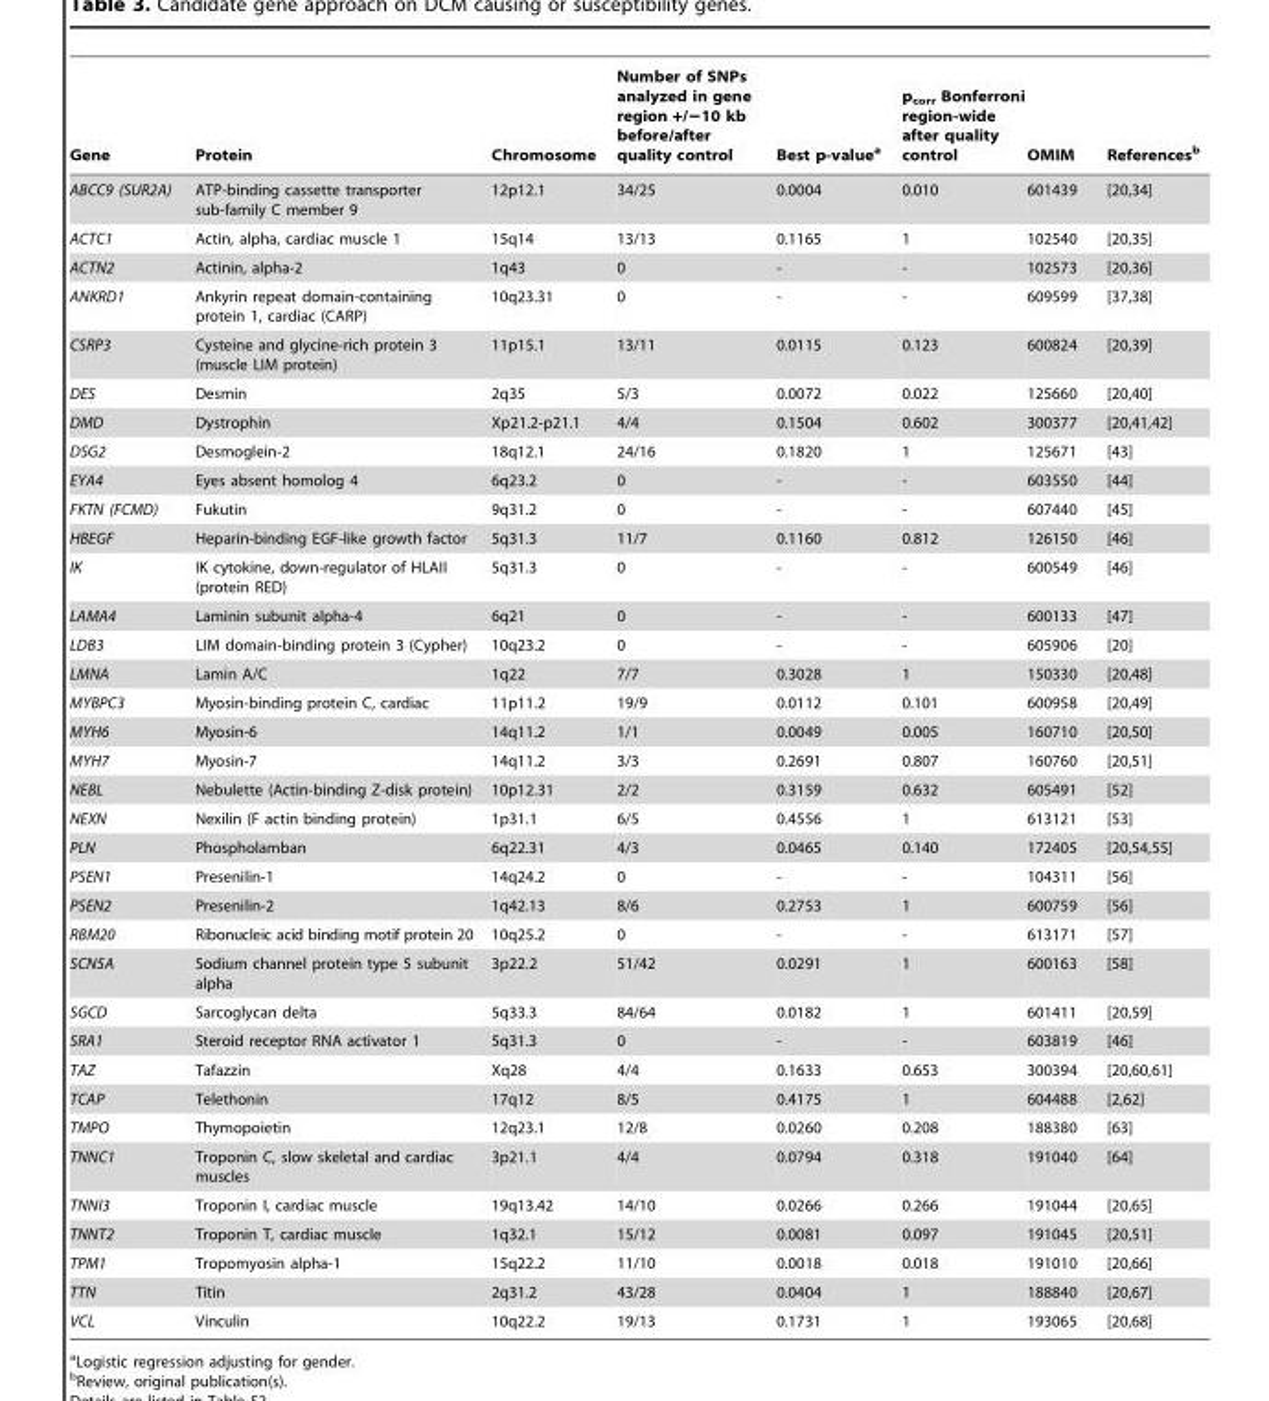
<table><thead><tr><td>Gene</td><td>Protein</td><td>Chromosome</td><td>Number of SNPs analyzed in gene region +/−10 kb before/after quality control</td><td>Best p-value<sup>a</sup></td><td>p<sub>corr</sub> Bonferroni region-wide after quality control</td><td>OMIM</td><td>References<sup>b</sup></td></tr></thead><tbody><tr><td>ABCC9 (SUR2A)</td><td>ATP-binding cassette transporter sub-family C member 9</td><td>12p12.1</td><td>34/25</td><td>0.0004</td><td>0.010</td><td>601439</td><td>[20,34]</td></tr><tr><td>ACTC1</td><td>Actin, alpha, cardiac muscle 1</td><td>15q14</td><td>13/13</td><td>0.1165</td><td>1</td><td>102540</td><td>[20,35]</td></tr><tr><td>ACTN2</td><td>Actinin, alpha-2</td><td>1q43</td><td>0</td><td>-</td><td>-</td><td>102573</td><td>[20,36]</td></tr><tr><td>ANKRD1</td><td>Ankyrin repeat domain-containing protein 1, cardiac (CARP)</td><td>10q23.31</td><td>0</td><td>-</td><td>-</td><td>609599</td><td>[37,38]</td></tr><tr><td>CSRP3</td><td>Cysteine and glycine-rich protein 3 (muscle LIM protein)</td><td>11p15.1</td><td>13/11</td><td>0.0115</td><td>0.123</td><td>600824</td><td>[20,39]</td></tr><tr><td>DES</td><td>Desmin</td><td>2q35</td><td>5/3</td><td>0.0072</td><td>0.022</td><td>125660</td><td>[20,40]</td></tr><tr><td>DMD</td><td>Dystrophin</td><td>Xp21.2-p21.1</td><td>4/4</td><td>0.1504</td><td>0.602</td><td>300377</td><td>[20,41,42]</td></tr><tr><td>DSG2</td><td>Desmoglein-2</td><td>18q12.1</td><td>24/16</td><td>0.1820</td><td>1</td><td>125671</td><td>[43]</td></tr><tr><td>EYA4</td><td>Eyes absent homolog 4</td><td>6q23.2</td><td>0</td><td>-</td><td>-</td><td>603550</td><td>[44]</td></tr><tr><td>FKTN (FCMD)</td><td>Fukutin</td><td>9q31.2</td><td>0</td><td>-</td><td>-</td><td>607440</td><td>[45]</td></tr><tr><td>HBEGF</td><td>Heparin-binding EGF-like growth factor</td><td>5q31.3</td><td>11/7</td><td>0.1160</td><td>0.812</td><td>126150</td><td>[46]</td></tr><tr><td>IK</td><td>IK cytokine, down-regulator of HLAII (protein RED)</td><td>5q31.3</td><td>0</td><td>-</td><td>-</td><td>600549</td><td>[46]</td></tr><tr><td>LAMA4</td><td>Laminin subunit alpha-4</td><td>6q21</td><td>0</td><td>-</td><td>-</td><td>600133</td><td>[47]</td></tr><tr><td>LDB3</td><td>LIM domain-binding protein 3 (Cypher)</td><td>10q23.2</td><td>0</td><td>-</td><td>-</td><td>605906</td><td>[20]</td></tr><tr><td>LMNA</td><td>Lamin A/C</td><td>1q22</td><td>7/7</td><td>0.3028</td><td>1</td><td>150330</td><td>[20,48]</td></tr><tr><td>MYBPC3</td><td>Myosin-binding protein C, cardiac</td><td>11p11.2</td><td>19/9</td><td>0.0112</td><td>0.101</td><td>600958</td><td>[20,49]</td></tr><tr><td>MYH6</td><td>Myosin-6</td><td>14q11.2</td><td>1/1</td><td>0.0049</td><td>0.005</td><td>160710</td><td>[20,50]</td></tr><tr><td>MYH7</td><td>Myosin-7</td><td>14q11.2</td><td>3/3</td><td>0.2691</td><td>0.807</td><td>160760</td><td>[20,51]</td></tr><tr><td>NEBL</td><td>Nebulette (Actin-binding Z-disk protein)</td><td>10p12.31</td><td>2/2</td><td>0.3159</td><td>0.632</td><td>605491</td><td>[52]</td></tr><tr><td>NEXN</td><td>Nexilin (F actin binding protein)</td><td>1p31.1</td><td>6/5</td><td>0.4556</td><td>1</td><td>613121</td><td>[53]</td></tr><tr><td>PLN</td><td>Phospholamban</td><td>6q22.31</td><td>4/3</td><td>0.0465</td><td>0.140</td><td>172405</td><td>[20,54,55]</td></tr><tr><td>PSEN1</td><td>Presenilin-1</td><td>14q24.2</td><td>0</td><td>-</td><td>-</td><td>104311</td><td>[56]</td></tr><tr><td>PSEN2</td><td>Presenilin-2</td><td>1q42.13</td><td>8/6</td><td>0.2753</td><td>1</td><td>600759</td><td>[56]</td></tr><tr><td>RBM20</td><td>Ribonucleic acid binding motif protein 20</td><td>10q25.2</td><td>0</td><td>-</td><td>-</td><td>613171</td><td>[57]</td></tr><tr><td>SCN5A</td><td>Sodium channel protein type 5 subunit alpha</td><td>3p22.2</td><td>51/42</td><td>0.0291</td><td>1</td><td>600163</td><td>[58]</td></tr><tr><td>SGCD</td><td>Sarcoglycan delta</td><td>5q33.3</td><td>84/64</td><td>0.0182</td><td>1</td><td>601411</td><td>[20,59]</td></tr><tr><td>SRA1</td><td>Steroid receptor RNA activator 1</td><td>5q31.3</td><td>0</td><td>-</td><td>-</td><td>603819</td><td>[46]</td></tr><tr><td>TAZ</td><td>Tafazzin</td><td>Xq28</td><td>4/4</td><td>0.1633</td><td>0.653</td><td>300394</td><td>[20,60,61]</td></tr><tr><td>TCAP</td><td>Telethonin</td><td>17q12</td><td>8/5</td><td>0.4175</td><td>1</td><td>604488</td><td>[2,62]</td></tr><tr><td>TMPO</td><td>Thymopoietin</td><td>12q23.1</td><td>12/8</td><td>0.0260</td><td>0.208</td><td>188380</td><td>[63]</td></tr><tr><td>TNNC1</td><td>Troponin C, slow skeletal and cardiac muscles</td><td>3p21.1</td><td>4/4</td><td>0.0794</td><td>0.318</td><td>191040</td><td>[64]</td></tr><tr><td>TNNI3</td><td>Troponin I, cardiac muscle</td><td>19q13.42</td><td>14/10</td><td>0.0266</td><td>0.266</td><td>191044</td><td>[20,65]</td></tr><tr><td>TNNT2</td><td>Troponin T, cardiac muscle</td><td>1q32.1</td><td>15/12</td><td>0.0081</td><td>0.097</td><td>191045</td><td>[20,51]</td></tr><tr><td>TPM1</td><td>Tropomyosin alpha-1</td><td>15q22.2</td><td>11/10</td><td>0.0018</td><td>0.018</td><td>191010</td><td>[20,66]</td></tr><tr><td>TTN</td><td>Titin</td><td>2q31.2</td><td>43/28</td><td>0.0404</td><td>1</td><td>188840</td><td>[20,67]</td></tr><tr><td>VCL</td><td>Vinculin</td><td>10q22.2</td><td>19/13</td><td>0.1731</td><td>1</td><td>193065</td><td>[20,68]</td></tr></tbody></table>